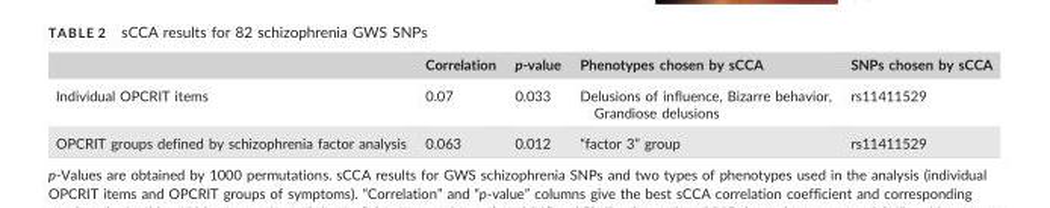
<table><thead><tr><td></td><td>Correlation</td><td>p-value</td><td>Phenotypes chosen by sCCA</td><td>SNPs chosen by sCCA</td></tr></thead><tbody><tr><td>Individual OPCRIT items</td><td>0.07</td><td>0.033</td><td>Delusions of influence, Bizarre behavior, Grandiose delusions</td><td>rs11411529</td></tr><tr><td>OPCRIT groups defined by schizophrenia factor analysis</td><td>0.063</td><td>0.012</td><td>“factor 3” group</td><td>rs11411529</td></tr></tbody></table>